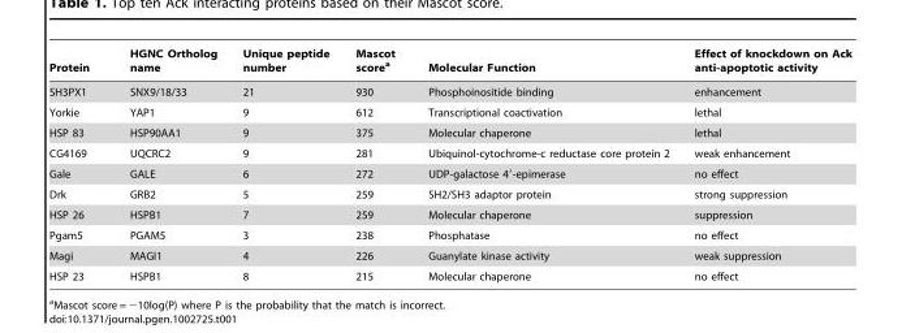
<table><thead><tr><td>Protein</td><td>HGNC Ortholog name</td><td>Unique peptide number</td><td>Mascot score<sup>a</sup></td><td>Molecular Function</td><td>Effect of knockdown on Ack anti-apoptotic activity</td></tr></thead><tbody><tr><td>SH3PX1</td><td>SNX9/18/33</td><td>21</td><td>930</td><td>Phosphoinositide binding</td><td>enhancement</td></tr><tr><td>Yorkie</td><td>YAP1</td><td>9</td><td>612</td><td>Transcriptional coactivation</td><td>lethal</td></tr><tr><td>HSP 83</td><td>HSP90AA1</td><td>9</td><td>375</td><td>Molecular chaperone</td><td>lethal</td></tr><tr><td>CG4169</td><td>UQCRC2</td><td>9</td><td>281</td><td>Ubiquinol-cytochrome-c reductase core protein 2</td><td>weak enhancement</td></tr><tr><td>Gale</td><td>GALE</td><td>6</td><td>272</td><td>UDP-galactose 4′-epimerase</td><td>no effect</td></tr><tr><td>Drk</td><td>GRB2</td><td>5</td><td>259</td><td>SH2/SH3 adaptor protein</td><td>strong suppression</td></tr><tr><td>HSP 26</td><td>HSPB1</td><td>7</td><td>259</td><td>Molecular chaperone</td><td>suppression</td></tr><tr><td>Pgam5</td><td>PGAM5</td><td>3</td><td>238</td><td>Phosphatase</td><td>no effect</td></tr><tr><td>Magi</td><td>MAGI1</td><td>4</td><td>226</td><td>Guanylate kinase activity</td><td>weak suppression</td></tr><tr><td>HSP 23</td><td>HSPB1</td><td>8</td><td>215</td><td>Molecular chaperone</td><td>no effect</td></tr></tbody></table>